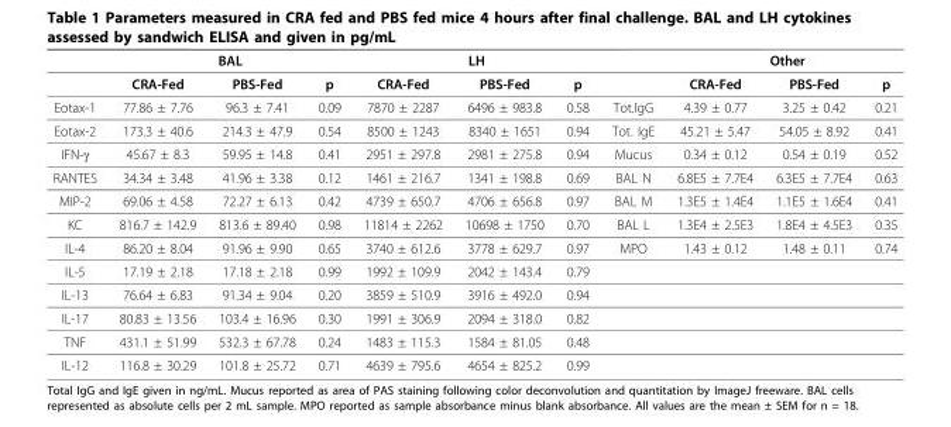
<table><thead><tr><td rowspan="2"></td><td colspan="3">BAL</td><td colspan="3">LH</td><td rowspan="2"></td><td colspan="3">Other</td></tr><tr><td>CRA-Fed</td><td>PBS-Fed</td><td>p</td><td>CRA-Fed</td><td>PBS-Fed</td><td>p</td><td>CRA-Fed</td><td>PBS-Fed</td><td>p</td></tr></thead><tbody><tr><td>Eotax-1</td><td>77.86 ± 7.76</td><td>96.3 ± 7.41</td><td>0.09</td><td>7870 ± 2287</td><td>6496 ± 983.8</td><td>0.58</td><td>Tot.IgG</td><td>4.39 ± 0.77</td><td>3.25 ± 0.42</td><td>0.21</td></tr><tr><td>Eotax-2</td><td>173.3 ± 40.6</td><td>214.3 ± 47.9</td><td>0.54</td><td>8500 ± 1243</td><td>8340 ± 1651</td><td>0.94</td><td>Tot. IgE</td><td>45.21 ± 5.47</td><td>54.05 ± 8.92</td><td>0.41</td></tr><tr><td>IFN-γ</td><td>45.67 ± 8.3</td><td>59.95 ± 14.8</td><td>0.41</td><td>2951 ± 297.8</td><td>2981 ± 275.8</td><td>0.94</td><td>Mucus</td><td>0.34 ± 0.12</td><td>0.54 ± 0.19</td><td>0.52</td></tr><tr><td>RANTES</td><td>34.34 ± 3.48</td><td>41.96 ± 3.38</td><td>0.12</td><td>1461 ± 216.7</td><td>1341 ± 198.8</td><td>0.69</td><td>BAL N</td><td>6.8E5 ± 7.7E4</td><td>6.3E5 ± 7.7E4</td><td>0.63</td></tr><tr><td>MIP-2</td><td>69.06 ± 4.58</td><td>72.27 ± 6.13</td><td>0.42</td><td>4739 ± 650.7</td><td>4706 ± 656.8</td><td>0.97</td><td>BAL M</td><td>1.3E5 ± 1.4E4</td><td>1.1E5 ± 1.6E4</td><td>0.41</td></tr><tr><td>KC</td><td>816.7 ± 142.9</td><td>813.6 ± 89.40</td><td>0.98</td><td>11814 ± 2262</td><td>10698 ± 1750</td><td>0.70</td><td>BAL L</td><td>1.3E4 ± 2.5E3</td><td>1.8E4 ± 4.5E3</td><td>0.35</td></tr><tr><td>IL-4</td><td>86.20 ± 8.04</td><td>91.96 ± 9.90</td><td>0.65</td><td>3740 ± 612.6</td><td>3778 ± 629.7</td><td>0.97</td><td>MPO</td><td>1.43 ± 0.12</td><td>1.48 ± 0.11</td><td>0.74</td></tr><tr><td>IL-5</td><td>17.19 ± 2.18</td><td>17.18 ± 2.18</td><td>0.99</td><td>1992 ± 109.9</td><td>2042 ± 143.4</td><td>0.79</td><td></td><td></td><td></td><td></td></tr><tr><td>IL-13</td><td>76.64 ± 6.83</td><td>91.34 ± 9.04</td><td>0.20</td><td>3859 ± 510.9</td><td>3916 ± 492.0</td><td>0.94</td><td></td><td></td><td></td><td></td></tr><tr><td>IL-17</td><td>80.83 ± 13.56</td><td>103.4 ± 16.96</td><td>0.30</td><td>1991 ± 306.9</td><td>2094 ± 318.0</td><td>0.82</td><td></td><td></td><td></td><td></td></tr><tr><td>TNF</td><td>431.1 ± 51.99</td><td>532.3 ± 67.78</td><td>0.24</td><td>1483 ± 115.3</td><td>1584 ± 81.05</td><td>0.48</td><td></td><td></td><td></td><td></td></tr><tr><td>IL-12</td><td>116.8 ± 30.29</td><td>101.8 ± 25.72</td><td>0.71</td><td>4639 ± 795.6</td><td>4654 ± 825.2</td><td>0.99</td><td></td><td></td><td></td><td></td></tr></tbody></table>